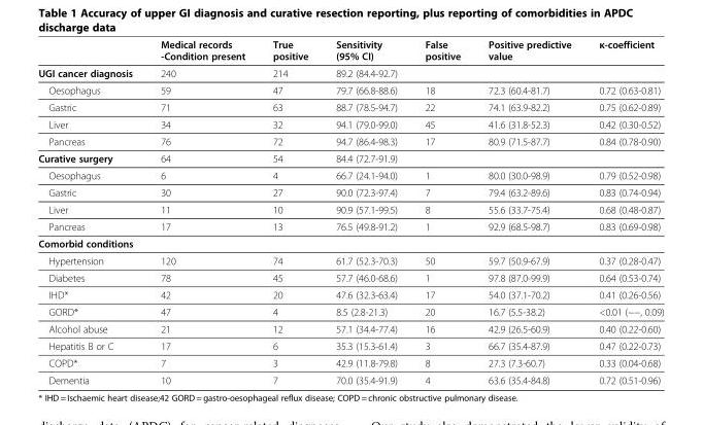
<table><thead><tr><td></td><td>Medical records -Condition present</td><td>True positive</td><td>Sensitivity (95% CI)</td><td>False positive</td><td>Positive predictive value</td><td>κ-coefficient</td></tr></thead><tbody><tr><td>UGI cancer diagnosis</td><td>240</td><td>214</td><td>89.2 (84.4-92.7)</td><td></td><td></td><td></td></tr><tr><td>Oesophagus</td><td>59</td><td>47</td><td>79.7 (66.8-88.6)</td><td>18</td><td>72.3 (60.4-81.7)</td><td>0.72 (0.63-0.81)</td></tr><tr><td>Gastric</td><td>71</td><td>63</td><td>88.7 (78.5-94.7)</td><td>22</td><td>74.1 (63.9-82.2)</td><td>0.75 (0.62-0.89)</td></tr><tr><td>Liver</td><td>34</td><td>32</td><td>94.1 (79.0-99.0)</td><td>45</td><td>41.6 (31.8-52.3)</td><td>0.42 (0.30-0.52)</td></tr><tr><td>Pancreas</td><td>76</td><td>72</td><td>94.7 (86.4-98.3)</td><td>17</td><td>80.9 (71.5-87.7)</td><td>0.84 (0.78-0.90)</td></tr><tr><td>Curative surgery</td><td>64</td><td>54</td><td>84.4 (72.7-91.9)</td><td></td><td></td><td></td></tr><tr><td>Oesophagus</td><td>6</td><td>4</td><td>66.7 (24.1-94.0)</td><td>1</td><td>80.0 (30.0-98.9)</td><td>0.79 (0.52-0.98)</td></tr><tr><td>Gastric</td><td>30</td><td>27</td><td>90.0 (72.3-97.4)</td><td>7</td><td>79.4 (63.2-89.6)</td><td>0.83 (0.74-0.94)</td></tr><tr><td>Liver</td><td>11</td><td>10</td><td>90.9 (57.1-99.5)</td><td>8</td><td>55.6 (33.7-75.4)</td><td>0.68 (0.48-0.87)</td></tr><tr><td>Pancreas</td><td>17</td><td>13</td><td>76.5 (49.8-91.2)</td><td>1</td><td>92.9 (68.5-98.7)</td><td>0.83 (0.69-0.98)</td></tr><tr><td colspan="7">Comorbid conditions</td></tr><tr><td>Hypertension</td><td>120</td><td>74</td><td>61.7 (52.3-70.3)</td><td>50</td><td>59.7 (50.9-67.9)</td><td>0.37 (0.28-0.47)</td></tr><tr><td>Diabetes</td><td>78</td><td>45</td><td>57.7 (46.0-68.6)</td><td>1</td><td>97.8 (87.0-99.9)</td><td>0.64 (0.53-0.74)</td></tr><tr><td>IHD*</td><td>42</td><td>20</td><td>47.6 (32.3-63.4)</td><td>17</td><td>54.0 (37.1-70.2)</td><td>0.41 (0.26-0.56)</td></tr><tr><td>GORD*</td><td>47</td><td>4</td><td>8.5 (2.8-21.3)</td><td>20</td><td>16.7 (5.5-38.2)</td><td>&lt;0.01 (−−, 0.09)</td></tr><tr><td>Alcohol abuse</td><td>21</td><td>12</td><td>57.1 (34.4-77.4)</td><td>16</td><td>42.9 (26.5-60.9)</td><td>0.40 (0.22-0.60)</td></tr><tr><td>Hepatitis B or C</td><td>17</td><td>6</td><td>35.3 (15.3-61.4)</td><td>3</td><td>66.7 (35.4-87.9)</td><td>0.47 (0.22-0.73)</td></tr><tr><td>COPD*</td><td>7</td><td>3</td><td>42.9 (11.8-79.8)</td><td>8</td><td>27.3 (7.3-60.7)</td><td>0.33 (0.04-0.68)</td></tr><tr><td>Dementia</td><td>10</td><td>7</td><td>70.0 (35.4-91.9)</td><td>4</td><td>63.6 (35.4-84.8)</td><td>0.72 (0.51-0.96)</td></tr></tbody></table>